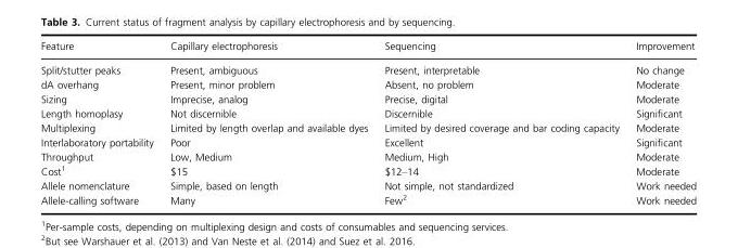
<table><thead><tr><td>Feature</td><td>Capillary electrophoresis</td><td>Sequencing</td><td>Improvement</td></tr></thead><tbody><tr><td>Split/stutter peaks</td><td>Present, ambiguous</td><td>Present, interpretable</td><td>No change</td></tr><tr><td>dA overhang</td><td>Present, minor problem</td><td>Absent, no problem</td><td>Moderate</td></tr><tr><td>Sizing</td><td>Imprecise, analog</td><td>Precise, digital</td><td>Moderate</td></tr><tr><td>Length homoplasy</td><td>Not discernible</td><td>Discernible</td><td>Significant</td></tr><tr><td>Multiplexing</td><td>Limited by length overlap and available dyes</td><td>Limited by desired coverage and bar coding capacity</td><td>Moderate</td></tr><tr><td>Interlaboratory portability</td><td>Poor</td><td>Excellent</td><td>Significant</td></tr><tr><td>Throughput</td><td>Low, Medium</td><td>Medium, High</td><td>Moderate</td></tr><tr><td>Cost1</td><td>$15</td><td>$12–14</td><td>Moderate</td></tr><tr><td>Allele nomenclature</td><td>Simple, based on length</td><td>Not simple, not standardized</td><td>Work needed</td></tr><tr><td>Allele-calling software</td><td>Many</td><td>Few2</td><td>Work needed</td></tr></tbody></table>